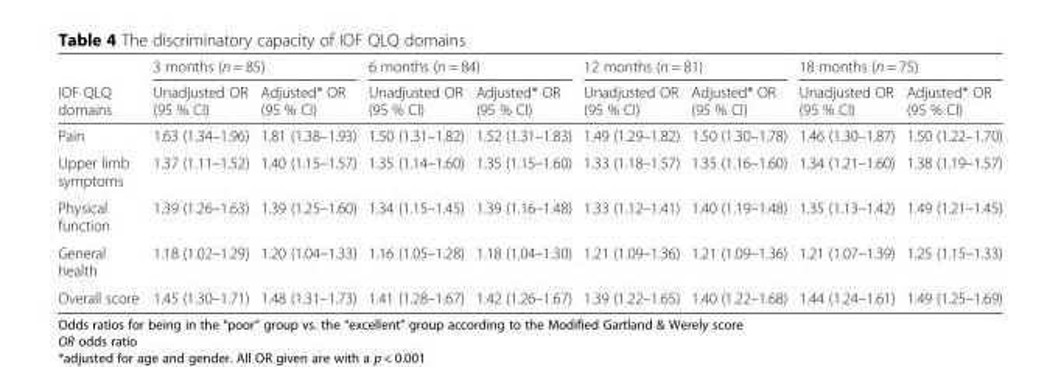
<table><thead><tr><td rowspan="2">IOF QLQ domains</td><td colspan="2">3 months (n = 85)</td><td colspan="2">6 months (n = 84)</td><td colspan="2">12 months (n = 81)</td><td colspan="2">18 months (n = 75)</td></tr><tr><td>Unadjusted OR (95 % CI)</td><td>Adjusted* OR (95 % CI)</td><td>Unadjusted OR (95 % CI)</td><td>Adjusted* OR (95 % CI)</td><td>Unadjusted OR (95 % CI)</td><td>Adjusted* OR (95 % CI)</td><td>Unadjusted OR (95 % CI)</td><td>Adjusted* OR (95 % CI)</td></tr></thead><tbody><tr><td>Pain</td><td>1.63 (1.34–1.96)</td><td>1.81 (1.38–1.93)</td><td>1.50 (1.31–1.82)</td><td>1.52 (1.31–1.83)</td><td>1.49 (1.29–1.82)</td><td>1.50 (1.30–1.78)</td><td>1.46 (1.30–1.87)</td><td>1.50 (1.22–1.70)</td></tr><tr><td>Upper limb symptoms</td><td>1.37 (1.11–1.52)</td><td>1.40 (1.15–1.57)</td><td>1.35 (1.14–1.60)</td><td>1.35 (1.15–1.60)</td><td>1.33 (1.18–1.57)</td><td>1.35 (1.16–1.60)</td><td>1.34 (1.21–1.60)</td><td>1.38 (1.19–1.57)</td></tr><tr><td>Physical function</td><td>1.39 (1.26–1.63)</td><td>1.39 (1.25–1.60)</td><td>1.34 (1.15–1.45)</td><td>1.39 (1.16–1.48)</td><td>1.33 (1.12–1.41)</td><td>1.40 (1.19–1.48)</td><td>1.35 (1.13–1.42)</td><td>1.49 (1.21–1.45)</td></tr><tr><td>General health</td><td>1.18 (1.02–1.29)</td><td>1.20 (1.04–1.33)</td><td>1.16 (1.05–1.28)</td><td>1.18 (1.04–1.30)</td><td>1.21 (1.09–1.36)</td><td>1.21 (1.09–1.36)</td><td>1.21 (1.07–1.39)</td><td>1.25 (1.15–1.33)</td></tr><tr><td>Overall score</td><td>1.45 (1.30–1.71)</td><td>1.48 (1.31–1.73)</td><td>1.41 (1.28–1.67)</td><td>1.42 (1.26–1.67)</td><td>1.39 (1.22–1.65)</td><td>1.40 (1.22–1.68)</td><td>1.44 (1.24–1.61)</td><td>1.49 (1.25–1.69)</td></tr></tbody></table>